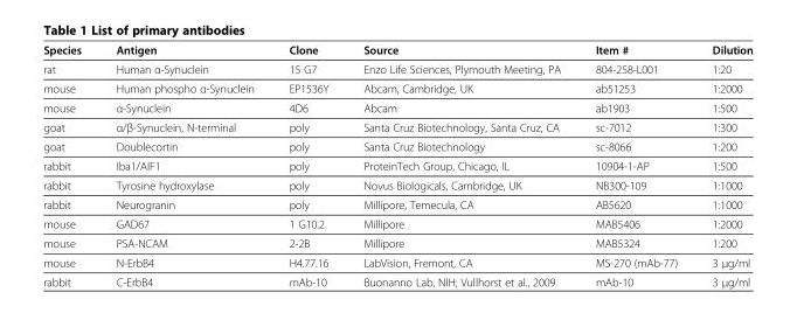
<table><thead><tr><td>Species</td><td>Antigen</td><td>Clone</td><td>Source</td><td>Item #</td><td>Dilution</td></tr></thead><tbody><tr><td>rat</td><td>Human α-Synuclein</td><td>15 G7</td><td>Enzo Life Sciences, Plymouth Meeting, PA</td><td>804-258-L001</td><td>1:20</td></tr><tr><td>mouse</td><td>Human phospho α-Synuclein</td><td>EP1536Y</td><td>Abcam, Cambridge, UK</td><td>ab51253</td><td>1:2000</td></tr><tr><td>mouse</td><td>α-Synuclein</td><td>4D6</td><td>Abcam</td><td>ab1903</td><td>1:500</td></tr><tr><td>goat</td><td>α/β-Synuclein, N-terminal</td><td>poly</td><td>Santa Cruz Biotechnology, Santa Cruz, CA</td><td>sc-7012</td><td>1:300</td></tr><tr><td>goat</td><td>Doublecortin</td><td>poly</td><td>Santa Cruz Biotechnology</td><td>sc-8066</td><td>1:200</td></tr><tr><td>rabbit</td><td>Iba1/AIF1</td><td>poly</td><td>ProteinTech Group, Chicago, IL</td><td>10904-1-AP</td><td>1:500</td></tr><tr><td>rabbit</td><td>Tyrosine hydroxylase</td><td>poly</td><td>Novus Biologicals, Cambridge, UK</td><td>NB300-109</td><td>1:1000</td></tr><tr><td>rabbit</td><td>Neurogranin</td><td>poly</td><td>Millipore, Temecula, CA</td><td>AB5620</td><td>1:1000</td></tr><tr><td>mouse</td><td>GAD67</td><td>1 G10.2</td><td>Millipore</td><td>MAB5406</td><td>1:2000</td></tr><tr><td>mouse</td><td>PSA-NCAM</td><td>2-2B</td><td>Millipore</td><td>MAB5324</td><td>1:200</td></tr><tr><td>mouse</td><td>N-ErbB4</td><td>H4.77.16</td><td>LabVision, Fremont, CA</td><td>MS-270 (mAb-77)</td><td>3 μg/ml</td></tr><tr><td>rabbit</td><td>C-ErbB4</td><td>mAb-10</td><td>Buonanno Lab, NIH; Vullhorst et al., 2009</td><td>mAb-10</td><td>3 μg/ml</td></tr></tbody></table>